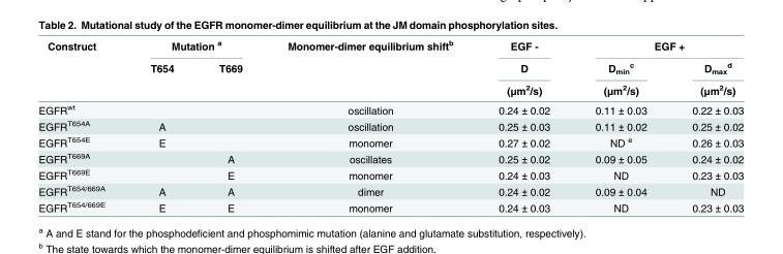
<table><thead><tr><td rowspan="3">Construct</td><td colspan="2">Mutation <sup>a</sup></td><td rowspan="3">Monomer-dimer equilibrium shift<sup>b</sup></td><td rowspan="3">EGF - D (μm<sup>2</sup>/s)</td><td colspan="2">EGF +</td></tr><tr><td rowspan="2">T654</td><td rowspan="2">T669</td><td rowspan="2">D<sub>min</sub> <sup>c</sup> (μm<sup>2</sup>/s)</td><td rowspan="2">D<sub>max</sub> <sup>d</sup> (μm<sup>2</sup>/s)</td></tr><tr></tr></thead><tbody><tr><td>EGFR<sup>wt</sup></td><td></td><td></td><td>oscillation</td><td>0.24 ± 0.02</td><td>0.11 ± 0.03</td><td>0.22 ± 0.03</td></tr><tr><td>EGFR<sup>T654A</sup></td><td>A</td><td></td><td>oscillation</td><td>0.25 ± 0.03</td><td>0.11 ± 0.02</td><td>0.25 ± 0.02</td></tr><tr><td>EGFR<sup>T654E</sup></td><td>E</td><td></td><td>monomer</td><td>0.27 ± 0.02</td><td>ND <sup>e</sup></td><td>0.26 ± 0.03</td></tr><tr><td>EGFR<sup>T669A</sup></td><td></td><td>A</td><td>oscillates</td><td>0.25 ± 0.02</td><td>0.09 ± 0.05</td><td>0.24 ± 0.02</td></tr><tr><td>EGFR<sup>T669E</sup></td><td></td><td>E</td><td>monomer</td><td>0.24 ± 0.03</td><td>ND</td><td>0.23 ± 0.03</td></tr><tr><td>EGFR<sup>T654/669A</sup></td><td>A</td><td>A</td><td>dimer</td><td>0.24 ± 0.02</td><td>0.09 ± 0.04</td><td>ND</td></tr><tr><td>EGFR<sup>T654/669E</sup></td><td>E</td><td>E</td><td>monomer</td><td>0.24 ± 0.03</td><td>ND</td><td>0.23 ± 0.03</td></tr></tbody></table>